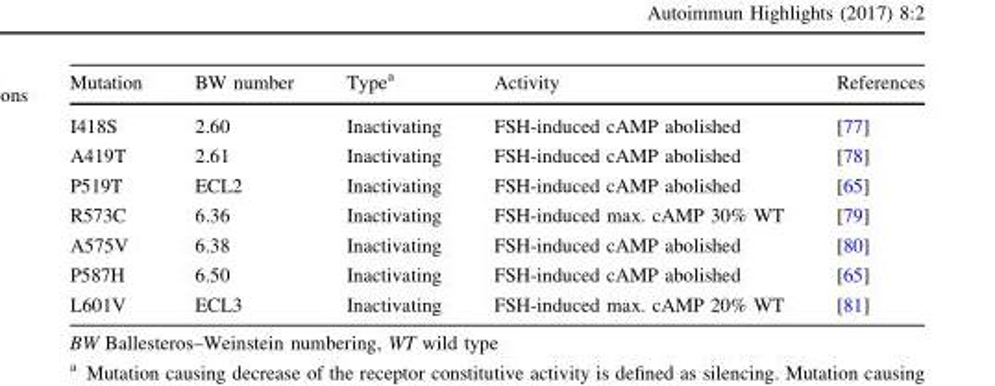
<table><thead><tr><td>Mutation</td><td>BW number</td><td>Type<sup>a</sup></td><td>Activity</td><td>References</td></tr></thead><tbody><tr><td>I418S</td><td>2.60</td><td>Inactivating</td><td>FSH-induced cAMP abolished</td><td>[77]</td></tr><tr><td>A419T</td><td>2.61</td><td>Inactivating</td><td>FSH-induced cAMP abolished</td><td>[78]</td></tr><tr><td>P519T</td><td>ECL2</td><td>Inactivating</td><td>FSH-induced cAMP abolished</td><td>[65]</td></tr><tr><td>R573C</td><td>6.36</td><td>Inactivating</td><td>FSH-induced max. cAMP 30% WT</td><td>[79]</td></tr><tr><td>A575V</td><td>6.38</td><td>Inactivating</td><td>FSH-induced cAMP abolished</td><td>[80]</td></tr><tr><td>P587H</td><td>6.50</td><td>Inactivating</td><td>FSH-induced cAMP abolished</td><td>[65]</td></tr><tr><td>L601V</td><td>ECL3</td><td>Inactivating</td><td>FSH-induced max. cAMP 20% WT</td><td>[81]</td></tr></tbody></table>